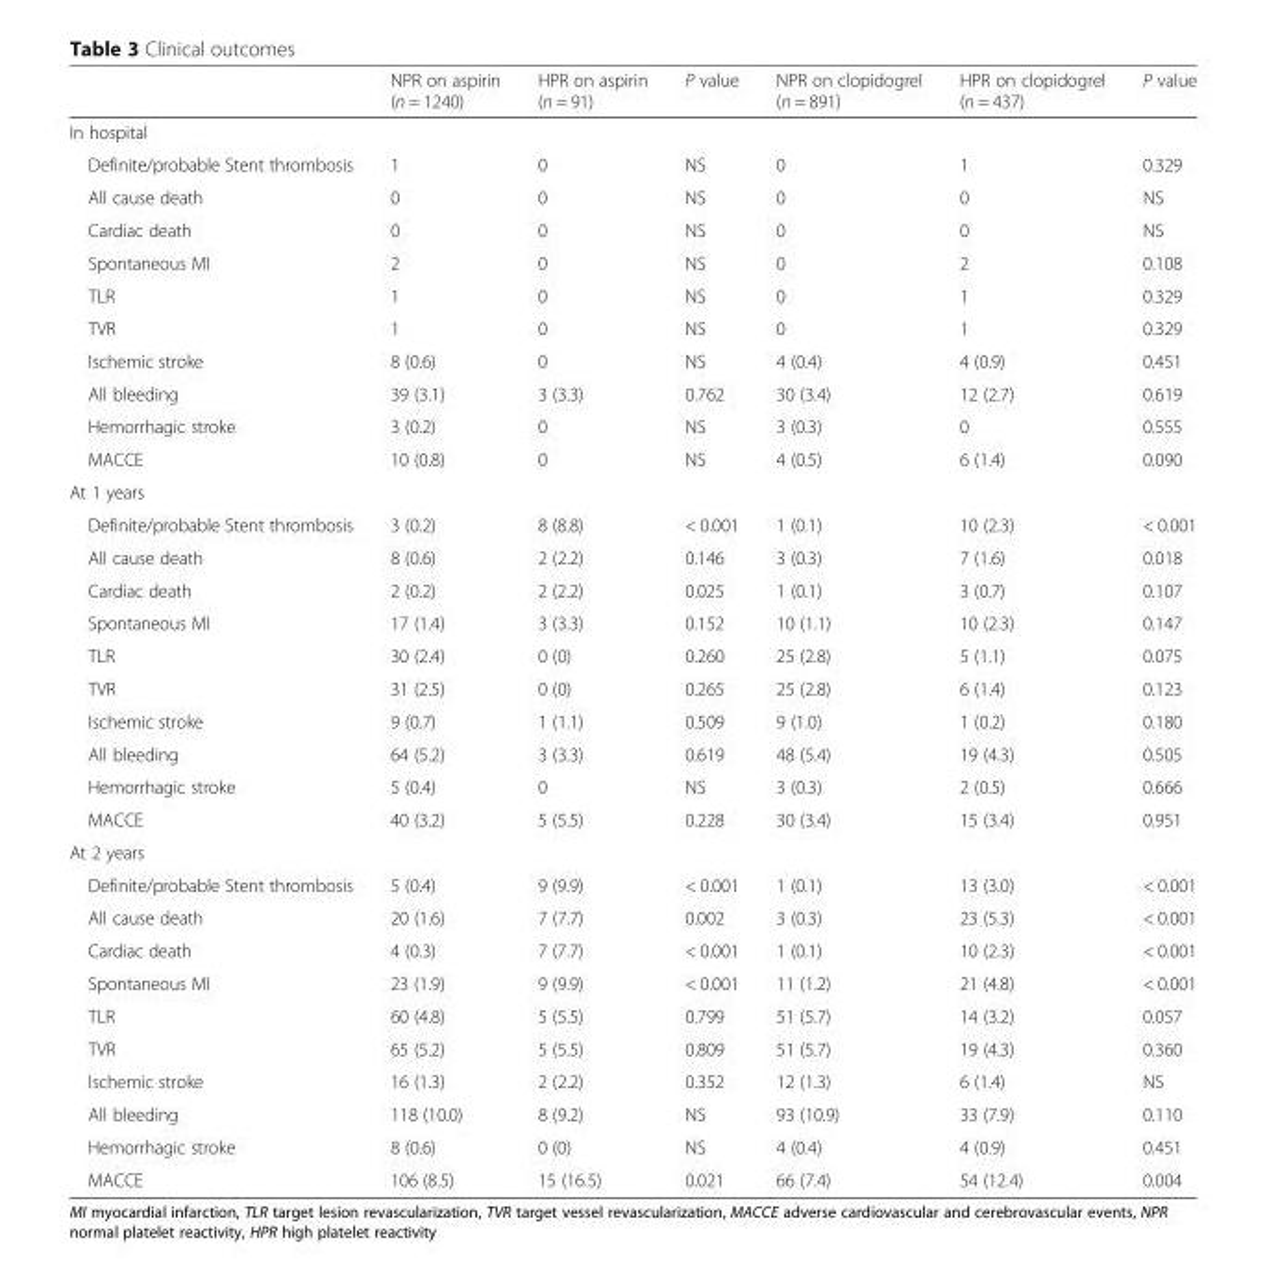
<table><thead><tr><td></td><td>NPR on aspirin (n = 1240)</td><td>HPR on aspirin (n = 91)</td><td>P value</td><td>NPR on clopidogrel (n = 891)</td><td>HPR on clopidogrel (n = 437)</td><td>P value</td></tr></thead><tbody><tr><td colspan="7">In hospital</td></tr><tr><td>Definite/probable Stent thrombosis</td><td>1</td><td>0</td><td>NS</td><td>0</td><td>1</td><td>0.329</td></tr><tr><td>All cause death</td><td>0</td><td>0</td><td>NS</td><td>0</td><td>0</td><td>NS</td></tr><tr><td>Cardiac death</td><td>0</td><td>0</td><td>NS</td><td>0</td><td>0</td><td>NS</td></tr><tr><td>Spontaneous MI</td><td>2</td><td>0</td><td>NS</td><td>0</td><td>2</td><td>0.108</td></tr><tr><td>TLR</td><td>1</td><td>0</td><td>NS</td><td>0</td><td>1</td><td>0.329</td></tr><tr><td>TVR</td><td>1</td><td>0</td><td>NS</td><td>0</td><td>1</td><td>0.329</td></tr><tr><td>Ischemic stroke</td><td>8 (0.6)</td><td>0</td><td>NS</td><td>4 (0.4)</td><td>4 (0.9)</td><td>0.451</td></tr><tr><td>All bleeding</td><td>39 (3.1)</td><td>3 (3.3)</td><td>0.762</td><td>30 (3.4)</td><td>12 (2.7)</td><td>0.619</td></tr><tr><td>Hemorrhagic stroke</td><td>3 (0.2)</td><td>0</td><td>NS</td><td>3 (0.3)</td><td>0</td><td>0.555</td></tr><tr><td>MACCE</td><td>10 (0.8)</td><td>0</td><td>NS</td><td>4 (0.5)</td><td>6 (1.4)</td><td>0.090</td></tr><tr><td colspan="7">At 1 years</td></tr><tr><td>Definite/probable Stent thrombosis</td><td>3 (0.2)</td><td>8 (8.8)</td><td>&lt; 0.001</td><td>1 (0.1)</td><td>10 (2.3)</td><td>&lt; 0.001</td></tr><tr><td>All cause death</td><td>8 (0.6)</td><td>2 (2.2)</td><td>0.146</td><td>3 (0.3)</td><td>7 (1.6)</td><td>0.018</td></tr><tr><td>Cardiac death</td><td>2 (0.2)</td><td>2 (2.2)</td><td>0.025</td><td>1 (0.1)</td><td>3 (0.7)</td><td>0.107</td></tr><tr><td>Spontaneous MI</td><td>17 (1.4)</td><td>3 (3.3)</td><td>0.152</td><td>10 (1.1)</td><td>10 (2.3)</td><td>0.147</td></tr><tr><td>TLR</td><td>30 (2.4)</td><td>0 (0)</td><td>0.260</td><td>25 (2.8)</td><td>5 (1.1)</td><td>0.075</td></tr><tr><td>TVR</td><td>31 (2.5)</td><td>0 (0)</td><td>0.265</td><td>25 (2.8)</td><td>6 (1.4)</td><td>0.123</td></tr><tr><td>Ischemic stroke</td><td>9 (0.7)</td><td>1 (1.1)</td><td>0.509</td><td>9 (1.0)</td><td>1 (0.2)</td><td>0.180</td></tr><tr><td>All bleeding</td><td>64 (5.2)</td><td>3 (3.3)</td><td>0.619</td><td>48 (5.4)</td><td>19 (4.3)</td><td>0.505</td></tr><tr><td>Hemorrhagic stroke</td><td>5 (0.4)</td><td>0</td><td>NS</td><td>3 (0.3)</td><td>2 (0.5)</td><td>0.666</td></tr><tr><td>MACCE</td><td>40 (3.2)</td><td>5 (5.5)</td><td>0.228</td><td>30 (3.4)</td><td>15 (3.4)</td><td>0.951</td></tr><tr><td colspan="7">At 2 years</td></tr><tr><td>Definite/probable Stent thrombosis</td><td>5 (0.4)</td><td>9 (9.9)</td><td>&lt; 0.001</td><td>1 (0.1)</td><td>13 (3.0)</td><td>&lt; 0.001</td></tr><tr><td>All cause death</td><td>20 (1.6)</td><td>7 (7.7)</td><td>0.002</td><td>3 (0.3)</td><td>23 (5.3)</td><td>&lt; 0.001</td></tr><tr><td>Cardiac death</td><td>4 (0.3)</td><td>7 (7.7)</td><td>&lt; 0.001</td><td>1 (0.1)</td><td>10 (2.3)</td><td>&lt; 0.001</td></tr><tr><td>Spontaneous MI</td><td>23 (1.9)</td><td>9 (9.9)</td><td>&lt; 0.001</td><td>11 (1.2)</td><td>21 (4.8)</td><td>&lt; 0.001</td></tr><tr><td>TLR</td><td>60 (4.8)</td><td>5 (5.5)</td><td>0.799</td><td>51 (5.7)</td><td>14 (3.2)</td><td>0.057</td></tr><tr><td>TVR</td><td>65 (5.2)</td><td>5 (5.5)</td><td>0.809</td><td>51 (5.7)</td><td>19 (4.3)</td><td>0.360</td></tr><tr><td>Ischemic stroke</td><td>16 (1.3)</td><td>2 (2.2)</td><td>0.352</td><td>12 (1.3)</td><td>6 (1.4)</td><td>NS</td></tr><tr><td>All bleeding</td><td>118 (10.0)</td><td>8 (9.2)</td><td>NS</td><td>93 (10.9)</td><td>33 (7.9)</td><td>0.110</td></tr><tr><td>Hemorrhagic stroke</td><td>8 (0.6)</td><td>0 (0)</td><td>NS</td><td>4 (0.4)</td><td>4 (0.9)</td><td>0.451</td></tr><tr><td>MACCE</td><td>106 (8.5)</td><td>15 (16.5)</td><td>0.021</td><td>66 (7.4)</td><td>54 (12.4)</td><td>0.004</td></tr></tbody></table>